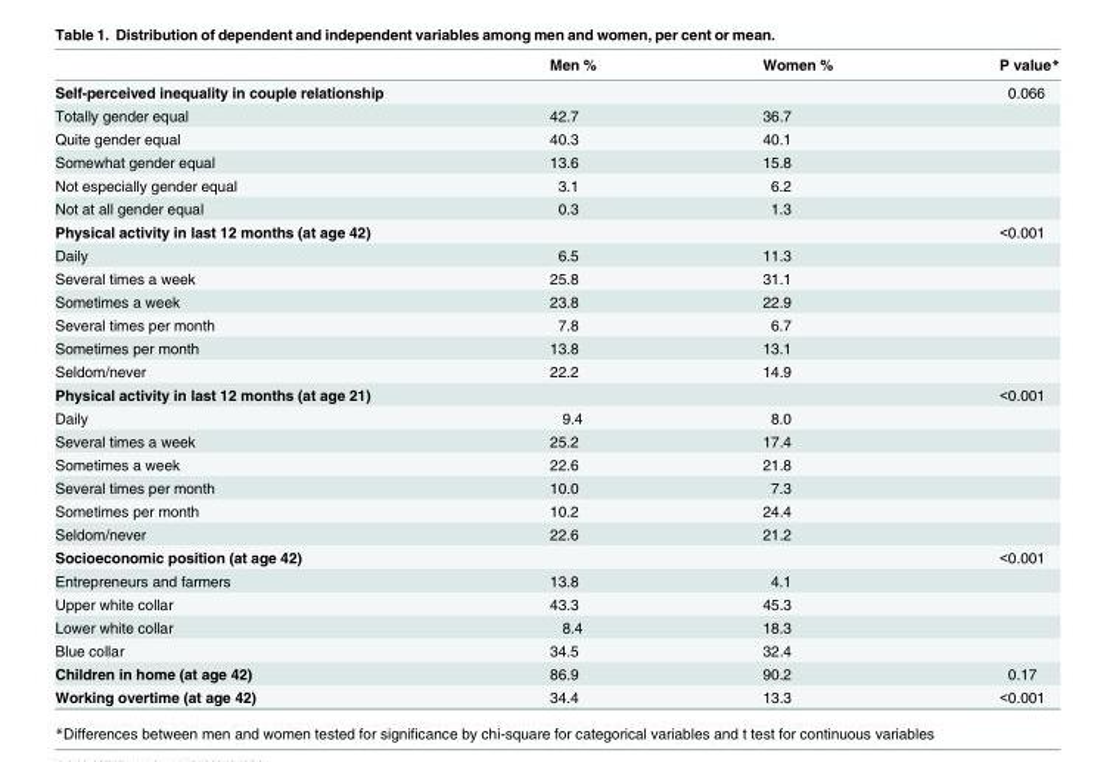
<table><thead><tr><td></td><td>Men %</td><td>Women %</td><td>P value*</td></tr></thead><tbody><tr><td>Self-perceived inequality in couple relationship</td><td></td><td></td><td>0.066</td></tr><tr><td>Totally gender equal</td><td>42.7</td><td>36.7</td><td></td></tr><tr><td>Quite gender equal</td><td>40.3</td><td>40.1</td><td></td></tr><tr><td>Somewhat gender equal</td><td>13.6</td><td>15.8</td><td></td></tr><tr><td>Not especially gender equal</td><td>3.1</td><td>6.2</td><td></td></tr><tr><td>Not at all gender equal</td><td>0.3</td><td>1.3</td><td></td></tr><tr><td>Physical activity in last 12 months (at age 42)</td><td></td><td></td><td>&lt;0.001</td></tr><tr><td>Daily</td><td>6.5</td><td>11.3</td><td></td></tr><tr><td>Several times a week</td><td>25.8</td><td>31.1</td><td></td></tr><tr><td>Sometimes a week</td><td>23.8</td><td>22.9</td><td></td></tr><tr><td>Several times per month</td><td>7.8</td><td>6.7</td><td></td></tr><tr><td>Sometimes per month</td><td>13.8</td><td>13.1</td><td></td></tr><tr><td>Seldom/never</td><td>22.2</td><td>14.9</td><td></td></tr><tr><td>Physical activity in last 12 months (at age 21)</td><td></td><td></td><td>&lt;0.001</td></tr><tr><td>Daily</td><td>9.4</td><td>8.0</td><td></td></tr><tr><td>Several times a week</td><td>25.2</td><td>17.4</td><td></td></tr><tr><td>Sometimes a week</td><td>22.6</td><td>21.8</td><td></td></tr><tr><td>Several times per month</td><td>10.0</td><td>7.3</td><td></td></tr><tr><td>Sometimes per month</td><td>10.2</td><td>24.4</td><td></td></tr><tr><td>Seldom/never</td><td>22.6</td><td>21.2</td><td></td></tr><tr><td>Socioeconomic position (at age 42)</td><td></td><td></td><td>&lt;0.001</td></tr><tr><td>Entrepreneurs and farmers</td><td>13.8</td><td>4.1</td><td></td></tr><tr><td>Upper white collar</td><td>43.3</td><td>45.3</td><td></td></tr><tr><td>Lower white collar</td><td>8.4</td><td>18.3</td><td></td></tr><tr><td>Blue collar</td><td>34.5</td><td>32.4</td><td></td></tr><tr><td>Children in home (at age 42)</td><td>86.9</td><td>90.2</td><td>0.17</td></tr><tr><td>Working overtime (at age 42)</td><td>34.4</td><td>13.3</td><td>&lt;0.001</td></tr></tbody></table>